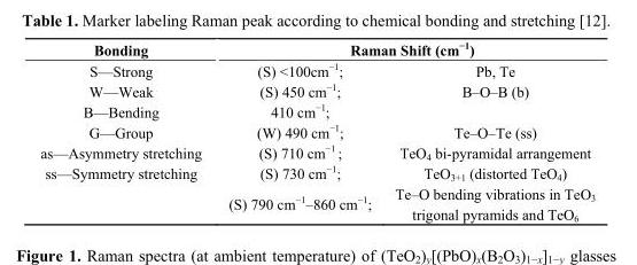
<table><thead><tr><td rowspan="2">Bonding S—Strong</td><td colspan="2">Raman Shift (cm<sup>−1</sup>)</td></tr><tr><td>(S) &lt;100cm<sup>−1</sup>;</td><td>Pb, Te</td></tr></thead><tbody><tr><td>W—Weak</td><td>(S) 450 cm<sup>−1</sup>;</td><td>B–O–B (b)</td></tr><tr><td>B—Bending</td><td>410 cm<sup>−1</sup>;</td><td></td></tr><tr><td>G—Group</td><td>(W) 490 cm<sup>−1</sup>;</td><td>Te–O–Te (ss)</td></tr><tr><td>as—Asymmetry stretching</td><td>(S) 710 cm<sup>−1</sup> ;</td><td>TeO<sup>4</sup> bi-pyramidal arrangement</td></tr><tr><td rowspan="2">ss—Symmetry stretching</td><td>(S) 730 cm<sup>−1</sup>;</td><td>TeO<sup>3+1</sup> (distorted TeO<sup>4</sup>)</td></tr><tr><td>(S) 790 cm<sup>−1</sup>–860 cm<sup>−1</sup>;</td><td>Te–O bending vibrations in TeO<sup>3</sup> trigonal pyramids and TeO<sup>6</sup></td></tr></tbody></table>